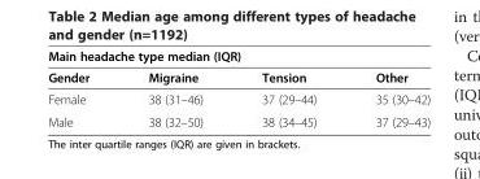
<table><thead><tr><td colspan="4">Main headache type median (IQR)</td></tr><tr><td>Gender</td><td>Migraine</td><td>Tension</td><td>Other</td></tr></thead><tbody><tr><td>Female</td><td>38 (31–46)</td><td>37 (29–44)</td><td>35 (30–42)</td></tr><tr><td>Male</td><td>38 (32–50)</td><td>38 (34–45)</td><td>37 (29–43)</td></tr></tbody></table>